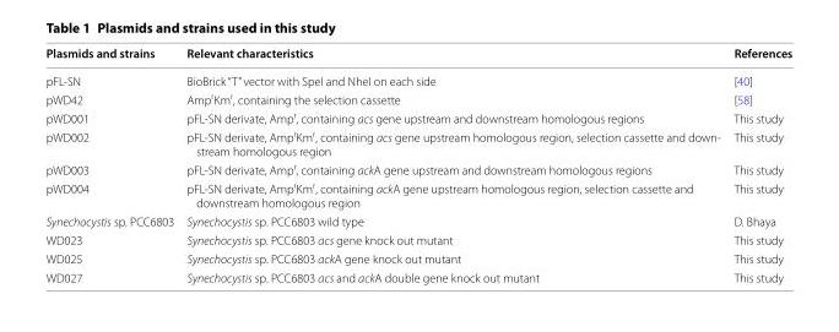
<table><thead><tr><td>Plasmids and strains</td><td>Relevant characteristics</td><td>References</td></tr></thead><tbody><tr><td>pFL-SN</td><td>BioBrick “T” vector with SpeI and NheI on each side</td><td>[40]</td></tr><tr><td>pWD42</td><td>Amp<sup>r</sup>Km<sup>r</sup>, containing the selection cassette</td><td>[58]</td></tr><tr><td>pWD001</td><td>pFL-SN derivate, Amp<sup>r</sup>, containing acs gene upstream and downstream homologous regions</td><td>This study</td></tr><tr><td>pWD002</td><td>pFL-SN derivate, AmprKmr, containing acs gene upstream homologous region, selection cassette and down- stream homologous region</td><td>This study</td></tr><tr><td>pWD003</td><td>pFL-SN derivate, Amp<sup>r</sup>, containing ackA gene upstream and downstream homologous regions</td><td>This study</td></tr><tr><td>pWD004</td><td>pFL-SN derivate, Amp<sup>r</sup>Km<sup>r</sup>, containing ackA gene upstream homologous region, selection cassette and downstream homologous region</td><td>This study</td></tr><tr><td>Synechocystis sp. PCC6803</td><td>Synechocystis sp. PCC6803 wild type</td><td>D. Bhaya</td></tr><tr><td>WD023</td><td>Synechocystis sp. PCC6803 acs gene knock out mutant</td><td>This study</td></tr><tr><td>WD025</td><td>Synechocystis sp. PCC6803 ackA gene knock out mutant</td><td>This study</td></tr><tr><td>WD027</td><td>Synechocystis sp. PCC6803 acs and ackA double gene knock out mutant</td><td>This study</td></tr></tbody></table>